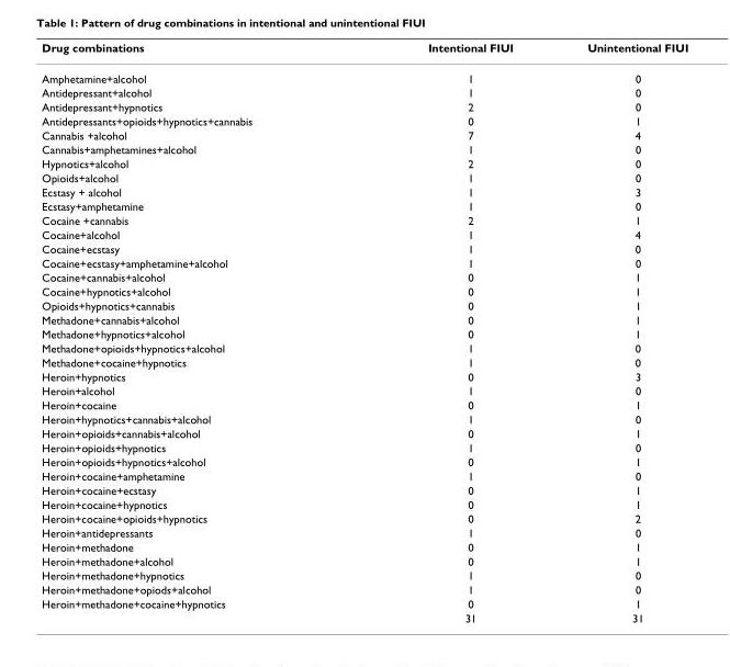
<table><thead><tr><td>Drug combinations</td><td>Intentional FIUI</td><td>Unintentional FIUI</td></tr></thead><tbody><tr><td>Amphetamine+alcohol</td><td>1</td><td>0</td></tr><tr><td>Antidepressant+alcohol</td><td>1</td><td>0</td></tr><tr><td>Antidepressant+hypnotics</td><td>2</td><td>0</td></tr><tr><td>Antidepressants+opioids+hypnotics+cannabis</td><td>0</td><td>1</td></tr><tr><td>Cannabis +alcohol</td><td>7</td><td>4</td></tr><tr><td>Cannabis+amphetamines+alcohol</td><td>1</td><td>0</td></tr><tr><td>Hypnotics+alcohol</td><td>2</td><td>0</td></tr><tr><td>Opioids+alcohol</td><td>1</td><td>0</td></tr><tr><td>Ecstasy + alcohol</td><td>1</td><td>3</td></tr><tr><td>Ecstasy+amphetamine</td><td>1</td><td>0</td></tr><tr><td>Cocaine +cannabis</td><td>2</td><td>1</td></tr><tr><td>Cocaine+alcohol</td><td>1</td><td>4</td></tr><tr><td>Cocaine+ecstasy</td><td>1</td><td>0</td></tr><tr><td>Cocaine+ecstasy+amphetamine+alcohol</td><td>1</td><td>0</td></tr><tr><td>Cocaine+cannabis+alcohol</td><td>0</td><td>1</td></tr><tr><td>Cocaine+hypnotics+alcohol</td><td>0</td><td>1</td></tr><tr><td>Opioids+hypnotics+cannabis</td><td>0</td><td>1</td></tr><tr><td>Methadone+cannabis+alcohol</td><td>0</td><td>1</td></tr><tr><td>Methadone+hypnotics+alcohol</td><td>0</td><td>1</td></tr><tr><td>Methadone+opioids+hypnotics+alcohol</td><td>1</td><td>0</td></tr><tr><td>Methadone+cocaine+hypnotics</td><td>1</td><td>0</td></tr><tr><td>Heroin+hypnotics</td><td>0</td><td>3</td></tr><tr><td>Heroin+alcohol</td><td>1</td><td>0</td></tr><tr><td>Heroin+cocaine</td><td>0</td><td>1</td></tr><tr><td>Heroin+hypnotics+cannabis+alcohol</td><td>1</td><td>0</td></tr><tr><td>Heroin+opioids+cannabis+alcohol</td><td>0</td><td>1</td></tr><tr><td>Heroin+opioids+hypnotics</td><td>1</td><td>0</td></tr><tr><td>Heroin+opioids+hypnotics+alcohol</td><td>0</td><td>1</td></tr><tr><td>Heroin+cocaine+amphetamine</td><td>1</td><td>0</td></tr><tr><td>Heroin+cocaine+ecstasy</td><td>0</td><td>1</td></tr><tr><td>Heroin+cocaine+hypnotics</td><td>0</td><td>1</td></tr><tr><td>Heroin+cocaine+opioids+hypnotics</td><td>0</td><td>2</td></tr><tr><td>Heroin+antidepressants</td><td>1</td><td>0</td></tr><tr><td>Heroin+methadone</td><td>0</td><td>1</td></tr><tr><td>Heroin+methadone+alcohol</td><td>0</td><td>1</td></tr><tr><td>Heroin+methadone+hypnotics</td><td>1</td><td>0</td></tr><tr><td>Heroin+methadone+opiods+alcohol</td><td>1</td><td>0</td></tr><tr><td rowspan="2">Heroin+methadone+cocaine+hypnotics</td><td>0</td><td>1</td></tr><tr><td>31</td><td>31</td></tr></tbody></table>